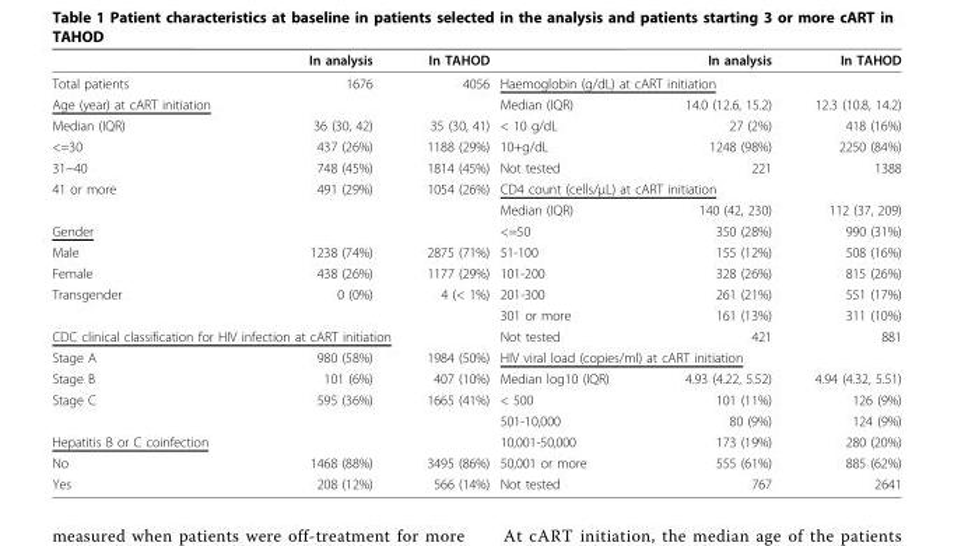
<table><thead><tr><td></td><td>In analysis</td><td>In TAHOD</td><td></td><td>In analysis</td><td>In TAHOD</td></tr></thead><tbody><tr><td>Total patients</td><td>1676</td><td>4056</td><td colspan="3">Haemoglobin (g/dL) at cART initiation</td></tr><tr><td>Age (year) at cART initiation</td><td></td><td></td><td>Median (IQR)</td><td>14.0 (12.6, 15.2)</td><td>12.3 (10.8, 14.2)</td></tr><tr><td>Median (IQR)</td><td>36 (30, 42)</td><td>35 (30, 41)</td><td>&lt; 10 g/dL</td><td>27 (2%)</td><td>418 (16%)</td></tr><tr><td>&lt;=30</td><td>437 (26%)</td><td>1188 (29%)</td><td>10+g/dL</td><td>1248 (98%)</td><td>2250 (84%)</td></tr><tr><td>31~40</td><td>748 (45%)</td><td>1814 (45%)</td><td>Not tested</td><td>221</td><td>1388</td></tr><tr><td rowspan="2">41 or more</td><td>491 (29%)</td><td>1054 (26%)</td><td colspan="3">CD4 count (cells/μL) at cART initiation</td></tr><tr><td></td><td></td><td>Median (IQR)</td><td>140 (42, 230)</td><td>112 (37, 209)</td></tr><tr><td colspan="3">Gender</td><td>&lt;=50</td><td>350 (28%)</td><td>990 (31%)</td></tr><tr><td>Male</td><td>1238 (74%)</td><td>2875 (71%)</td><td>51-100</td><td>155 (12%)</td><td>508 (16%)</td></tr><tr><td>Female</td><td>438 (26%)</td><td>1177 (29%)</td><td>101-200</td><td>328 (26%)</td><td>815 (26%)</td></tr><tr><td rowspan="2">Transgender</td><td>0 (0%)</td><td>4 (&lt; 1%)</td><td>201-300</td><td>261 (21%)</td><td>551 (17%)</td></tr><tr><td></td><td></td><td>301 or more</td><td>161 (13%)</td><td>311 (10%)</td></tr><tr><td colspan="3">CDC clinical classification for HIV infection at cART initiation</td><td>Not tested</td><td>421</td><td>881</td></tr><tr><td>Stage A</td><td>980 (58%)</td><td>1984 (50%)</td><td colspan="3">HIV viral load (copies/ml) at cART initiation</td></tr><tr><td>Stage B</td><td>101 (6%)</td><td>407 (10%)</td><td>Median log10 (IQR)</td><td>4.93 (4.22, 5.52)</td><td>4.94 (4.32, 5.51)</td></tr><tr><td rowspan="2">Stage C</td><td>595 (36%)</td><td>1665 (41%)</td><td>&lt; 500</td><td>101 (11%)</td><td>126 (9%)</td></tr><tr><td></td><td></td><td>501-10,000</td><td>80 (9%)</td><td>124 (9%)</td></tr><tr><td colspan="3">Hepatitis B or C coinfection</td><td>10,001-50,000</td><td>173 (19%)</td><td>280 (20%)</td></tr><tr><td>No</td><td>1468 (88%)</td><td>3495 (86%)</td><td>50,001 or more</td><td>555 (61%)</td><td>885 (62%)</td></tr><tr><td>Yes</td><td>208 (12%)</td><td>566 (14%)</td><td>Not tested</td><td>767</td><td>2641</td></tr></tbody></table>